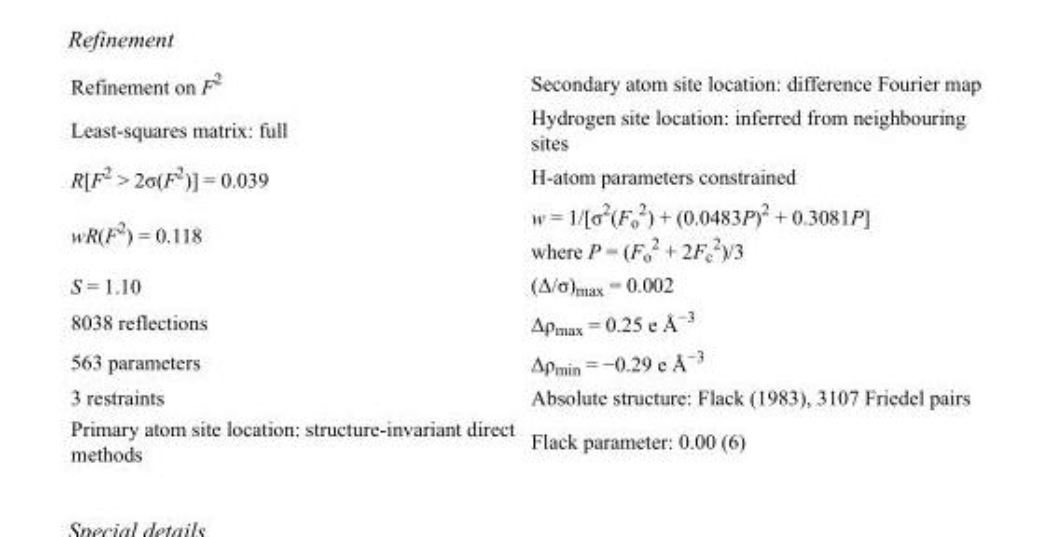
<table><tbody><tr><td>Refinement on F<sup>2</sup></td><td>Secondary atom site location: difference Fourier map</td></tr><tr><td>Least-squares matrix: full</td><td>Hydrogen site location: inferred from neighbouring sites</td></tr><tr><td>R[F<sup>2</sup> &gt; 2σ(F<sup>2</sup>)] = 0.039</td><td>H-atom parameters constrained</td></tr><tr><td>wR(F<sup>2</sup>) = 0.118</td><td>w = 1/[σ<sup>2</sup>(F<sub>o</sub> <sup>2</sup>) + (0.0483P)<sup>2</sup> + 0.3081P] where P = (F<sub>o</sub> <sup>2</sup> + 2F<sub>c</sub> <sup>2</sup>)/3</td></tr><tr><td>S = 1.10</td><td>(Δ/σ)<sub>max</sub> = 0.002</td></tr><tr><td>8038 reflections</td><td>Δρ<sub>max</sub> = 0.25 e Å<sup>−3</sup></td></tr><tr><td>563 parameters</td><td>Δρ<sub>min</sub> = −0.29 e Å<sup>−3</sup></td></tr><tr><td>3 restraints</td><td>Absolute structure: Flack (1983), 3107 Friedel pairs</td></tr><tr><td>Primary atom site location: structure-invariant direct methods</td><td>Flack parameter: 0.00 (6)</td></tr></tbody></table>